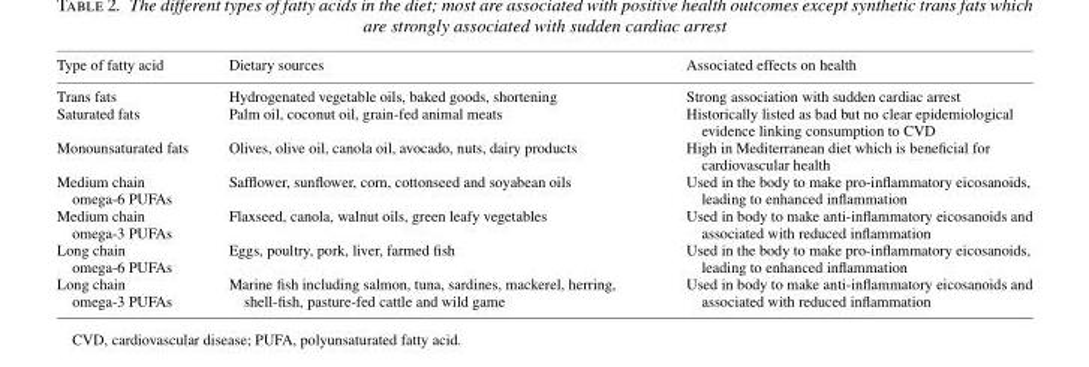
<table><thead><tr><td>Type of fatty acid</td><td>Dietary sources</td><td>Associated effects on health</td></tr></thead><tbody><tr><td>Trans fats</td><td>Hydrogenated vegetable oils, baked goods, shortening</td><td>Strong association with sudden cardiac arrest</td></tr><tr><td>Saturated fats</td><td>Palm oil, coconut oil, grain-fed animal meats</td><td>Historically listed as bad but no clear epidemiological evidence linking consumption to CVD</td></tr><tr><td>Monounsaturated fats</td><td>Olives, olive oil, canola oil, avocado, nuts, dairy products</td><td>High in Mediterranean diet which is beneficial for cardiovascular health</td></tr><tr><td>Medium chain omega-6 PUFAs</td><td>Safflower, sunflower, corn, cottonseed and soyabean oils</td><td>Used in the body to make pro-inflammatory eicosanoids, leading to enhanced inflammation</td></tr><tr><td>Medium chain omega-3 PUFAs</td><td>Flaxseed, canola, walnut oils, green leafy vegetables</td><td>Used in body to make anti-inflammatory eicosanoids and associated with reduced inflammation</td></tr><tr><td>Long chain omega-6 PUFAs</td><td>Eggs, poultry, pork, liver, farmed fish</td><td>Used in the body to make pro-inflammatory eicosanoids, leading to enhanced inflammation</td></tr><tr><td>Long chain omega-3 PUFAs</td><td>Marine fish including salmon, tuna, sardines, mackerel, herring, shell-fish, pasture-fed cattle and wild game</td><td>Used in body to make anti-inflammatory eicosanoids and associated with reduced inflammation</td></tr></tbody></table>